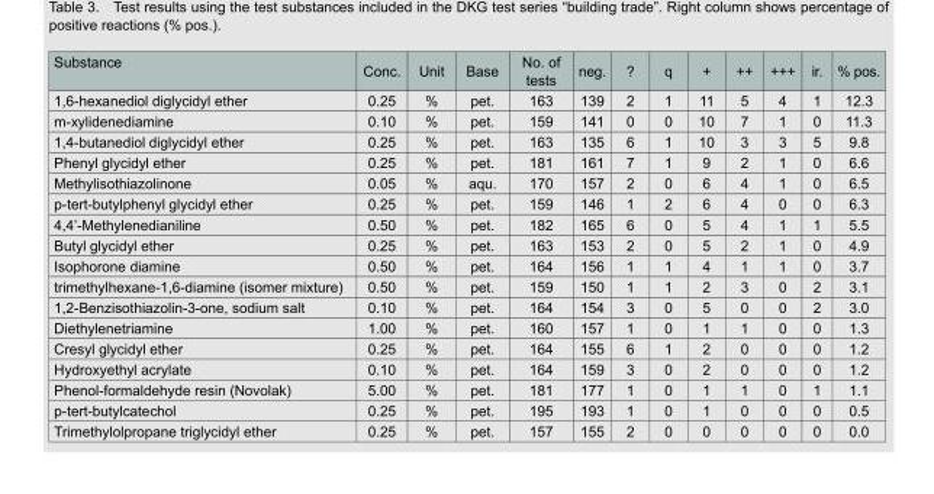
<table><thead><tr><td>Substance</td><td>Conc.</td><td>Unit</td><td>Base</td><td>No. of tests</td><td>neg.</td><td>?</td><td>q</td><td>+</td><td>++</td><td>+++</td><td>ir.</td><td>% pos.</td></tr></thead><tbody><tr><td>1,6-hexanediol diglycidyl ether</td><td>0.25</td><td>%</td><td>pet.</td><td>163</td><td>139</td><td>2</td><td>1</td><td>11</td><td>5</td><td>4</td><td>1</td><td>12.3</td></tr><tr><td>m-xylidenediamine</td><td>0.10</td><td>%</td><td>pet.</td><td>159</td><td>141</td><td>0</td><td>0</td><td>10</td><td>7</td><td>1</td><td>0</td><td>11.3</td></tr><tr><td>1,4-butanediol diglycidyl ether</td><td>0.25</td><td>%</td><td>pet.</td><td>163</td><td>135</td><td>6</td><td>1</td><td>10</td><td>3</td><td>3</td><td>5</td><td>9.8</td></tr><tr><td>Phenyl glycidyl ether</td><td>0.25</td><td>%</td><td>pet.</td><td>181</td><td>161</td><td>7</td><td>1</td><td>9</td><td>2</td><td>1</td><td>0</td><td>6.6</td></tr><tr><td>Methylisothiazolinone</td><td>0.05</td><td>%</td><td>aqu.</td><td>170</td><td>157</td><td>2</td><td>0</td><td>6</td><td>4</td><td>1</td><td>0</td><td>6.5</td></tr><tr><td>p-tert-butylphenyl glycidyl ether</td><td>0.25</td><td>%</td><td>pet.</td><td>159</td><td>146</td><td>1</td><td>2</td><td>6</td><td>4</td><td>0</td><td>0</td><td>6.3</td></tr><tr><td>4,4’-Methylenedianiline</td><td>0.50</td><td>%</td><td>pet.</td><td>182</td><td>165</td><td>6</td><td>0</td><td>5</td><td>4</td><td>1</td><td>1</td><td>5.5</td></tr><tr><td>Butyl glycidyl ether</td><td>0.25</td><td>%</td><td>pet.</td><td>163</td><td>153</td><td>2</td><td>0</td><td>5</td><td>2</td><td>1</td><td>0</td><td>4.9</td></tr><tr><td>Isophorone diamine</td><td>0.50</td><td>%</td><td>pet.</td><td>164</td><td>156</td><td>1</td><td>1</td><td>4</td><td>1</td><td>1</td><td>0</td><td>3.7</td></tr><tr><td>trimethylhexane-1,6-diamine (isomer mixture)</td><td>0.50</td><td>%</td><td>pet.</td><td>159</td><td>150</td><td>1</td><td>1</td><td>2</td><td>3</td><td>0</td><td>2</td><td>3.1</td></tr><tr><td>1,2-Benzisothiazolin-3-one, sodium salt</td><td>0.10</td><td>%</td><td>pet.</td><td>164</td><td>154</td><td>3</td><td>0</td><td>5</td><td>0</td><td>0</td><td>2</td><td>3.0</td></tr><tr><td>Diethylenetriamine</td><td>1.00</td><td>%</td><td>pet.</td><td>160</td><td>157</td><td>1</td><td>0</td><td>1</td><td>1</td><td>0</td><td>0</td><td>1.3</td></tr><tr><td>Cresyl glycidyl ether</td><td>0.25</td><td>%</td><td>pet.</td><td>164</td><td>155</td><td>6</td><td>1</td><td>2</td><td>0</td><td>0</td><td>0</td><td>1.2</td></tr><tr><td>Hydroxyethyl acrylate</td><td>0.10</td><td>%</td><td>pet.</td><td>164</td><td>159</td><td>3</td><td>0</td><td>2</td><td>0</td><td>0</td><td>0</td><td>1.2</td></tr><tr><td>Phenol-formaldehyde resin (Novolak)</td><td>5.00</td><td>%</td><td>pet.</td><td>181</td><td>177</td><td>1</td><td>0</td><td>1</td><td>1</td><td>0</td><td>1</td><td>1.1</td></tr><tr><td>p-tert-butylcatechol</td><td>0.25</td><td>%</td><td>pet.</td><td>195</td><td>193</td><td>1</td><td>0</td><td>1</td><td>0</td><td>0</td><td>0</td><td>0.5</td></tr><tr><td>Trimethylolpropane triglycidyl ether</td><td>0.25</td><td>%</td><td>pet.</td><td>157</td><td>155</td><td>2</td><td>0</td><td>0</td><td>0</td><td>0</td><td>0</td><td>0.0</td></tr></tbody></table>